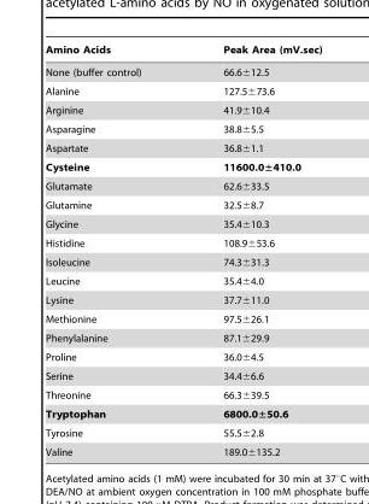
<table><thead><tr><td>Amino Acids</td><td>Peak Area (mV.sec)</td></tr></thead><tbody><tr><td>None (buffer control)</td><td>66.6±12.5</td></tr><tr><td>Alanine</td><td>127.5±73.6</td></tr><tr><td>Arginine</td><td>41.9±10.4</td></tr><tr><td>Asparagine</td><td>38.8±5.5</td></tr><tr><td>Aspartate</td><td>36.8±1.1</td></tr><tr><td>Cysteine</td><td>11600.0±410.0</td></tr><tr><td>Glutamate</td><td>62.6±33.5</td></tr><tr><td>Glutamine</td><td>32.5±8.7</td></tr><tr><td>Glycine</td><td>35.4±10.3</td></tr><tr><td>Histidine</td><td>108.9±53.6</td></tr><tr><td>Isoleucine</td><td>74.3±31.3</td></tr><tr><td>Leucine</td><td>35.4±4.0</td></tr><tr><td>Lysine</td><td>37.7±11.0</td></tr><tr><td>Methionine</td><td>97.5±26.1</td></tr><tr><td>Phenylalanine</td><td>87.1±29.9</td></tr><tr><td>Proline</td><td>36.0±4.5</td></tr><tr><td>Serine</td><td>34.4±6.6</td></tr><tr><td>Threonine</td><td>66.3±39.5</td></tr><tr><td>Tryptophan</td><td>6800.0±50.6</td></tr><tr><td>Tyrosine</td><td>55.5±2.8</td></tr><tr><td>Valine</td><td>189.0±135.2</td></tr></tbody></table>